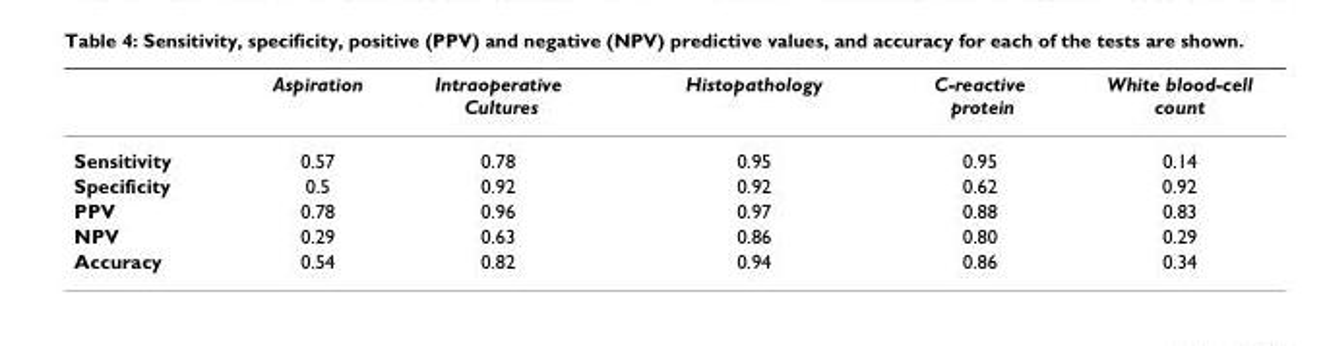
<table><thead><tr><td></td><td>Aspiration</td><td>Intraoperative Cultures</td><td>Histopathology</td><td>C-reactive protein</td><td>White blood-cell count</td></tr></thead><tbody><tr><td>Sensitivity</td><td>0.57</td><td>0.78</td><td>0.95</td><td>0.95</td><td>0.14</td></tr><tr><td>Specificity</td><td>0.5</td><td>0.92</td><td>0.92</td><td>0.62</td><td>0.92</td></tr><tr><td>PPV</td><td>0.78</td><td>0.96</td><td>0.97</td><td>0.88</td><td>0.83</td></tr><tr><td>NPV</td><td>0.29</td><td>0.63</td><td>0.86</td><td>0.80</td><td>0.29</td></tr><tr><td>Accuracy</td><td>0.54</td><td>0.82</td><td>0.94</td><td>0.86</td><td>0.34</td></tr></tbody></table>